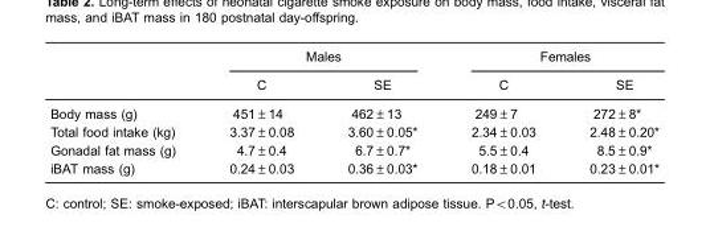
<table><thead><tr><td rowspan="2"></td><td colspan="2">Males</td><td colspan="2">Females</td></tr><tr><td>C</td><td>SE</td><td>C</td><td>SE</td></tr></thead><tbody><tr><td>Body mass (g)</td><td>451±14</td><td>462±13</td><td>249±7</td><td>272±8*</td></tr><tr><td>Total food intake (kg)</td><td>3.37±0.08</td><td>3.60±0.05*</td><td>2.34±0.03</td><td>2.48±0.20*</td></tr><tr><td>Gonadal fat mass (g)</td><td>4.7±0.4</td><td>6.7±0.7*</td><td>5.5±0.4</td><td>8.5±0.9*</td></tr><tr><td>iBAT mass (g)</td><td>0.24±0.03</td><td>0.36±0.03*</td><td>0.18±0.01</td><td>0.23±0.01*</td></tr></tbody></table>